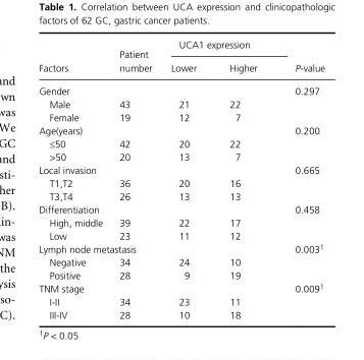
<table><thead><tr><td rowspan="2">Factors</td><td rowspan="2">Patient number</td><td colspan="2">UCA1 expression</td><td rowspan="2">P- value</td></tr><tr><td>Lower</td><td>Higher</td></tr></thead><tbody><tr><td colspan="4">Gender</td><td>0.297</td></tr><tr><td>Male</td><td>43</td><td>21</td><td>22</td><td></td></tr><tr><td>Female</td><td>19</td><td>12</td><td>7</td><td></td></tr><tr><td colspan="4">Age(years)</td><td>0.200</td></tr><tr><td>≤50</td><td>42</td><td>20</td><td>22</td><td></td></tr><tr><td>&gt;50</td><td>20</td><td>13</td><td>7</td><td></td></tr><tr><td colspan="4">Local invasion</td><td>0.665</td></tr><tr><td>T1,T2</td><td>36</td><td>20</td><td>16</td><td></td></tr><tr><td>T3,T4</td><td>26</td><td>13</td><td>13</td><td></td></tr><tr><td colspan="4">Differentiation</td><td>0.458</td></tr><tr><td>High, middle</td><td>39</td><td>22</td><td>17</td><td></td></tr><tr><td>Low</td><td>23</td><td>11</td><td>12</td><td></td></tr><tr><td colspan="4">Lymph node metastasis</td><td>0.0031</td></tr><tr><td>Negative</td><td>34</td><td>24</td><td>10</td><td></td></tr><tr><td>Positive</td><td>28</td><td>9</td><td>19</td><td></td></tr><tr><td colspan="4">TNM stage</td><td>0.0091</td></tr><tr><td>I- II</td><td>34</td><td>23</td><td>11</td><td></td></tr><tr><td>III- IV</td><td>28</td><td>10</td><td>18</td><td></td></tr></tbody></table>